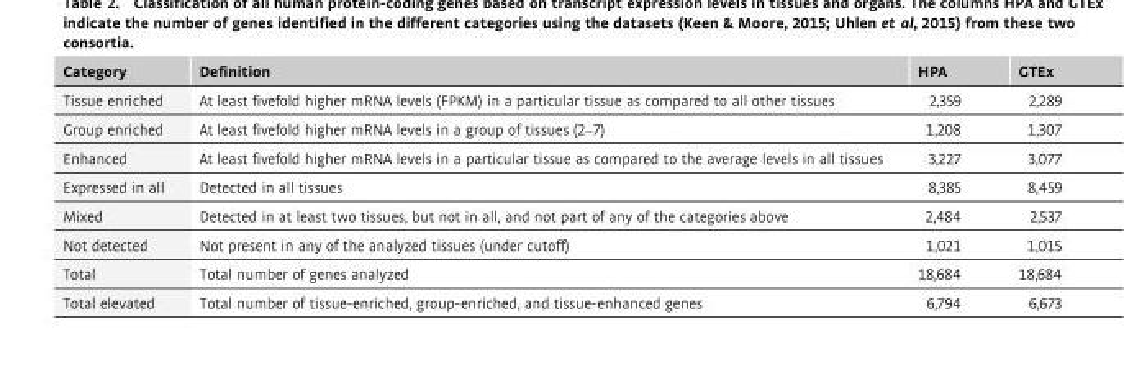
<table><thead><tr><td>Category</td><td>Definition</td><td>HPA</td><td>GTEx</td></tr></thead><tbody><tr><td>Tissue enriched</td><td>At least fivefold higher mRNA levels (FPKM) in a particular tissue as compared to all other tissues</td><td>2,359</td><td>2,289</td></tr><tr><td>Group enriched</td><td>At least fivefold higher mRNA levels in a group of tissues (2–7)</td><td>1,208</td><td>1,307</td></tr><tr><td>Enhanced</td><td>At least fivefold higher mRNA levels in a particular tissue as compared to the average levels in all tissues</td><td>3,227</td><td>3,077</td></tr><tr><td>Expressed in all</td><td>Detected in all tissues</td><td>8,385</td><td>8,459</td></tr><tr><td>Mixed</td><td>Detected in at least two tissues, but not in all, and not part of any of the categories above</td><td>2,484</td><td>2,537</td></tr><tr><td>Not detected</td><td>Not present in any of the analyzed tissues (under cutoff)</td><td>1,021</td><td>1,015</td></tr><tr><td>Total</td><td>Total number of genes analyzed</td><td>18,684</td><td>18,684</td></tr><tr><td>Total elevated</td><td>Total number of tissue-enriched, group-enriched, and tissue-enhanced genes</td><td>6,794</td><td>6,673</td></tr></tbody></table>